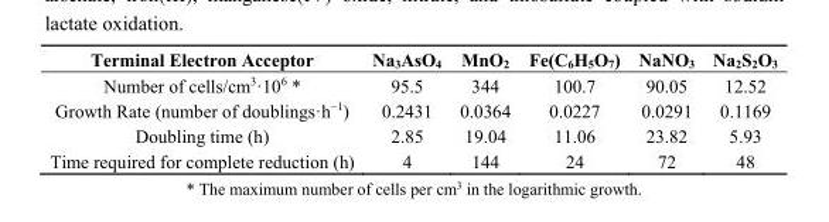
<table><thead><tr><td>Terminal Electron Acceptor</td><td>Na<sub>3</sub>AsO<sub>4</sub></td><td>MnO<sub>2</sub></td><td>Fe(C<sub>6</sub>H<sub>5</sub>O<sub>7</sub>)</td><td>NaNO<sub>3</sub></td><td>Na<sub>2</sub>S<sub>2</sub>O<sub>3</sub></td></tr></thead><tbody><tr><td>Number of cells/cm<sup>3</sup>·10<sup>6</sup> *</td><td>95.5</td><td>344</td><td>100.7</td><td>90.05</td><td>12.52</td></tr><tr><td>Growth Rate (number of doublings·h<sup>−1</sup>)</td><td>0.2431</td><td>0.0364</td><td>0.0227</td><td>0.0291</td><td>0.1169</td></tr><tr><td>Doubling time (h)</td><td>2.85</td><td>19.04</td><td>11.06</td><td>23.82</td><td>5.93</td></tr><tr><td>Time required for complete reduction (h)</td><td>4</td><td>144</td><td>24</td><td>72</td><td>48</td></tr></tbody></table>